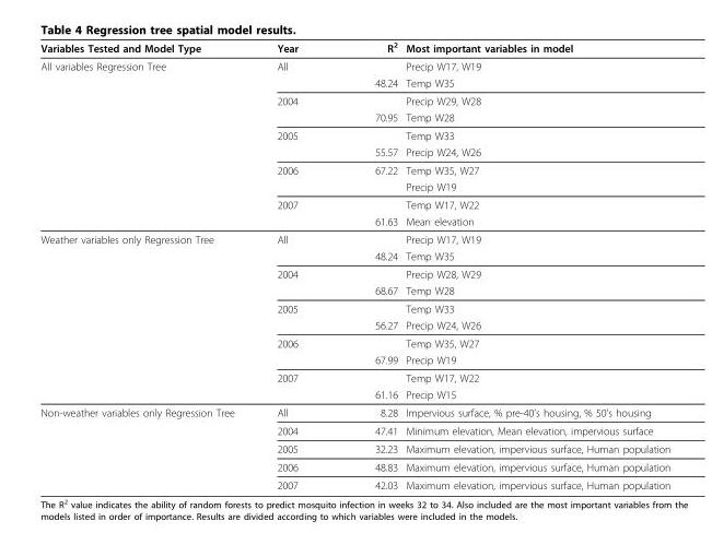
<table><thead><tr><td>Variables Tested and Model Type</td><td>Year</td><td>R<sup>2</sup></td><td>Most important variables in model</td></tr></thead><tbody><tr><td rowspan="10">All variables Regression Tree</td><td>All</td><td></td><td>Precip W17, W19</td></tr><tr><td></td><td>48.24</td><td>Temp W35</td></tr><tr><td>2004</td><td></td><td>Precip W29, W28</td></tr><tr><td></td><td>70.95</td><td>Temp W28</td></tr><tr><td>2005</td><td></td><td>Temp W33</td></tr><tr><td></td><td>55.57</td><td>Precip W24, W26</td></tr><tr><td>2006</td><td>67.22</td><td>Temp W35, W27</td></tr><tr><td></td><td></td><td>Precip W19</td></tr><tr><td>2007</td><td></td><td>Temp W17, W22</td></tr><tr><td></td><td>61.63</td><td>Mean elevation</td></tr><tr><td rowspan="10">Weather variables only Regression Tree</td><td>All</td><td></td><td>Precip W17, W19</td></tr><tr><td></td><td>48.24</td><td>Temp W35</td></tr><tr><td>2004</td><td></td><td>Precip W28, W29</td></tr><tr><td></td><td>68.67</td><td>Temp W28</td></tr><tr><td>2005</td><td></td><td>Temp W33</td></tr><tr><td></td><td>56.27</td><td>Precip W24, W26</td></tr><tr><td>2006</td><td></td><td>Temp W35, W27</td></tr><tr><td></td><td>67.99</td><td>Precip W19</td></tr><tr><td>2007</td><td></td><td>Temp W17, W22</td></tr><tr><td></td><td>61.16</td><td>Precip W15</td></tr><tr><td rowspan="5">Non-weather variables only Regression Tree</td><td>All</td><td>8.28</td><td>Impervious surface, % pre-40’s housing, % 50’s housing</td></tr><tr><td>2004</td><td>47.41</td><td>Minimum elevation, Mean elevation, impervious surface</td></tr><tr><td>2005</td><td>32.23</td><td>Maximum elevation, impervious surface, Human population</td></tr><tr><td>2006</td><td>48.83</td><td>Maximum elevation, impervious surface, Human population</td></tr><tr><td>2007</td><td>42.03</td><td>Maximum elevation, impervious surface, Human population</td></tr></tbody></table>